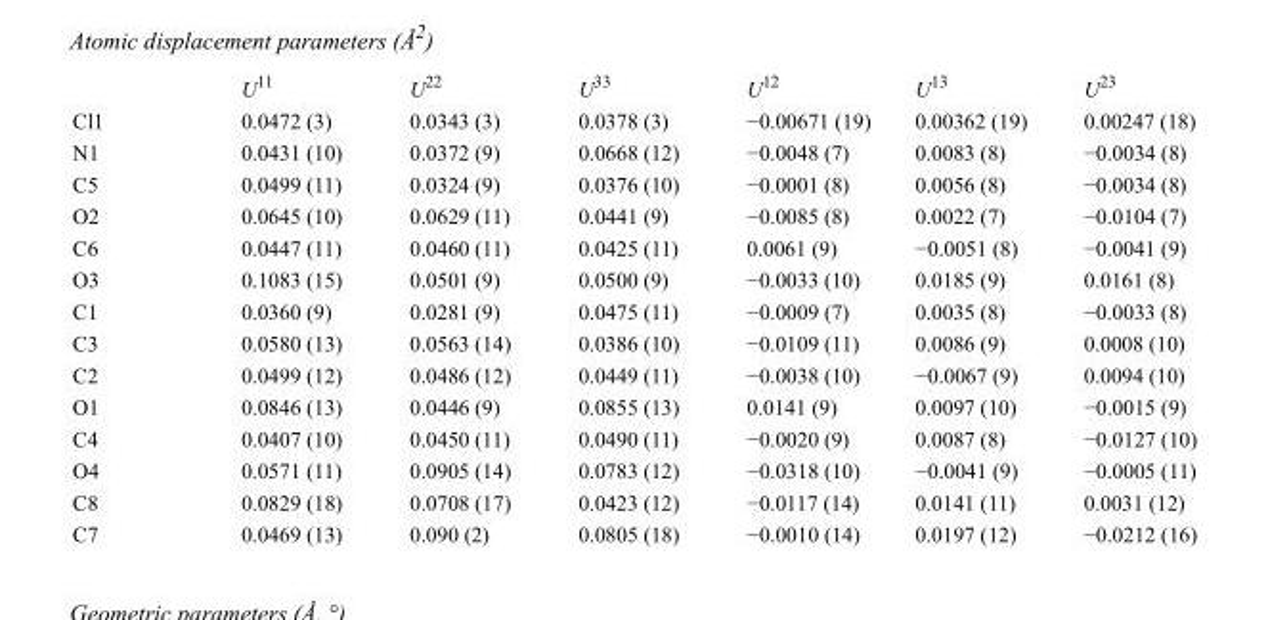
<table><thead><tr><td></td><td>U<sup>11</sup></td><td>U<sup>22</sup></td><td>U<sup>33</sup></td><td>U<sup>12</sup></td><td>U<sup>13</sup></td><td>U<sup>23</sup></td></tr></thead><tbody><tr><td>Cl1</td><td>0.0472 (3)</td><td>0.0343 (3)</td><td>0.0378 (3)</td><td>−0.00671 (19)</td><td>0.00362 (19)</td><td>0.00247 (18)</td></tr><tr><td>N1</td><td>0.0431 (10)</td><td>0.0372 (9)</td><td>0.0668 (12)</td><td>−0.0048 (7)</td><td>0.0083 (8)</td><td>−0.0034 (8)</td></tr><tr><td>C5</td><td>0.0499 (11)</td><td>0.0324 (9)</td><td>0.0376 (10)</td><td>−0.0001 (8)</td><td>0.0056 (8)</td><td>−0.0034 (8)</td></tr><tr><td>O2</td><td>0.0645 (10)</td><td>0.0629 (11)</td><td>0.0441 (9)</td><td>−0.0085 (8)</td><td>0.0022 (7)</td><td>−0.0104 (7)</td></tr><tr><td>C6</td><td>0.0447 (11)</td><td>0.0460 (11)</td><td>0.0425 (11)</td><td>0.0061 (9)</td><td>−0.0051 (8)</td><td>−0.0041 (9)</td></tr><tr><td>O3</td><td>0.1083 (15)</td><td>0.0501 (9)</td><td>0.0500 (9)</td><td>−0.0033 (10)</td><td>0.0185 (9)</td><td>0.0161 (8)</td></tr><tr><td>C1</td><td>0.0360 (9)</td><td>0.0281 (9)</td><td>0.0475 (11)</td><td>−0.0009 (7)</td><td>0.0035 (8)</td><td>−0.0033 (8)</td></tr><tr><td>C3</td><td>0.0580 (13)</td><td>0.0563 (14)</td><td>0.0386 (10)</td><td>−0.0109 (11)</td><td>0.0086 (9)</td><td>0.0008 (10)</td></tr><tr><td>C2</td><td>0.0499 (12)</td><td>0.0486 (12)</td><td>0.0449 (11)</td><td>−0.0038 (10)</td><td>−0.0067 (9)</td><td>0.0094 (10)</td></tr><tr><td>O1</td><td>0.0846 (13)</td><td>0.0446 (9)</td><td>0.0855 (13)</td><td>0.0141 (9)</td><td>0.0097 (10)</td><td>−0.0015 (9)</td></tr><tr><td>C4</td><td>0.0407 (10)</td><td>0.0450 (11)</td><td>0.0490 (11)</td><td>−0.0020 (9)</td><td>0.0087 (8)</td><td>−0.0127 (10)</td></tr><tr><td>O4</td><td>0.0571 (11)</td><td>0.0905 (14)</td><td>0.0783 (12)</td><td>−0.0318 (10)</td><td>−0.0041 (9)</td><td>−0.0005 (11)</td></tr><tr><td>C8</td><td>0.0829 (18)</td><td>0.0708 (17)</td><td>0.0423 (12)</td><td>−0.0117 (14)</td><td>0.0141 (11)</td><td>0.0031 (12)</td></tr><tr><td>C7</td><td>0.0469 (13)</td><td>0.090 (2)</td><td>0.0805 (18)</td><td>−0.0010 (14)</td><td>0.0197 (12)</td><td>−0.0212 (16)</td></tr></tbody></table>